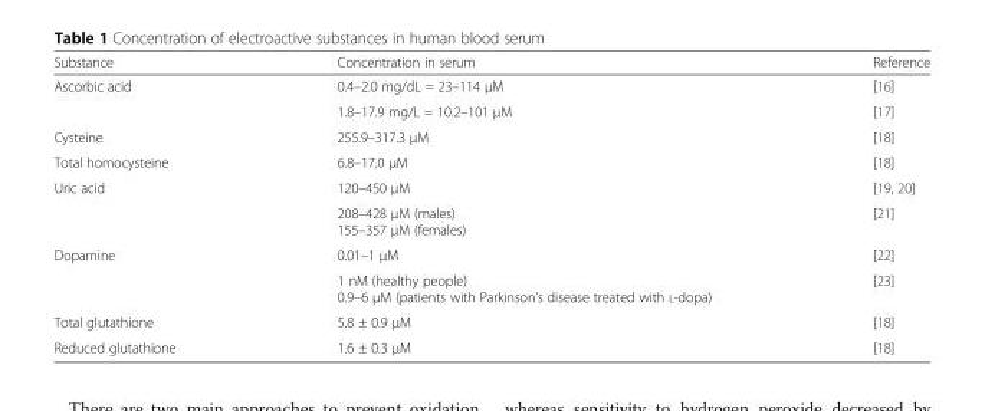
<table><thead><tr><td>Substance</td><td>Concentration in serum</td><td>Reference</td></tr></thead><tbody><tr><td rowspan="2">Ascorbic acid</td><td>0.4–2.0 mg/dL = 23–114 μM</td><td>[16]</td></tr><tr><td>1.8–17.9 mg/L = 10.2–101 μM</td><td>[17]</td></tr><tr><td>Cysteine</td><td>255.9–317.3 μM</td><td>[18]</td></tr><tr><td>Total homocysteine</td><td>6.8–17.0 μM</td><td>[18]</td></tr><tr><td rowspan="2">Uric acid</td><td>120–450 μM</td><td>[19, 20]</td></tr><tr><td>208–428 μM (males) 155–357 μM (females)</td><td>[21]</td></tr><tr><td rowspan="2">Dopamine</td><td>0.01–1 μM</td><td>[22]</td></tr><tr><td>1 nM (healthy people) 0.9–6 μM (patients with Parkinson’s disease treated with L-dopa)</td><td>[23]</td></tr><tr><td>Total glutathione</td><td>5.8 ± 0.9 μM</td><td>[18]</td></tr><tr><td>Reduced glutathione</td><td>1.6 ± 0.3 μM</td><td>[18]</td></tr></tbody></table>